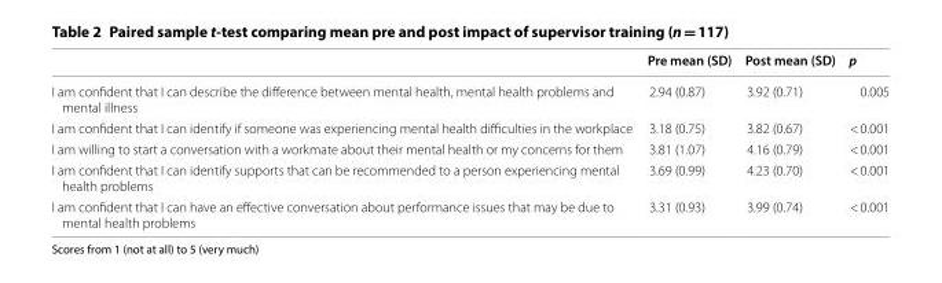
<table><thead><tr><td></td><td>Pre mean (SD)</td><td>Post mean (SD)</td><td>p</td></tr></thead><tbody><tr><td>I am confident that I can describe the difference between mental health, mental health problems and mental illness</td><td>2.94 (0.87)</td><td>3.92 (0.71)</td><td>0.005</td></tr><tr><td>I am confident that I can identify if someone was experiencing mental health difficulties in the workplace</td><td>3.18 (0.75)</td><td>3.82 (0.67)</td><td>&lt; 0.001</td></tr><tr><td>I am willing to start a conversation with a workmate about their mental health or my concerns for them</td><td>3.81 (1.07)</td><td>4.16 (0.79)</td><td>&lt; 0.001</td></tr><tr><td>I am confident that I can identify supports that can be recommended to a person experiencing mental health problems</td><td>3.69 (0.99)</td><td>4.23 (0.70)</td><td>&lt; 0.001</td></tr><tr><td>I am confident that I can have an effective conversation about performance issues that may be due to mental health problems</td><td>3.31 (0.93)</td><td>3.99 (0.74)</td><td>&lt; 0.001</td></tr></tbody></table>